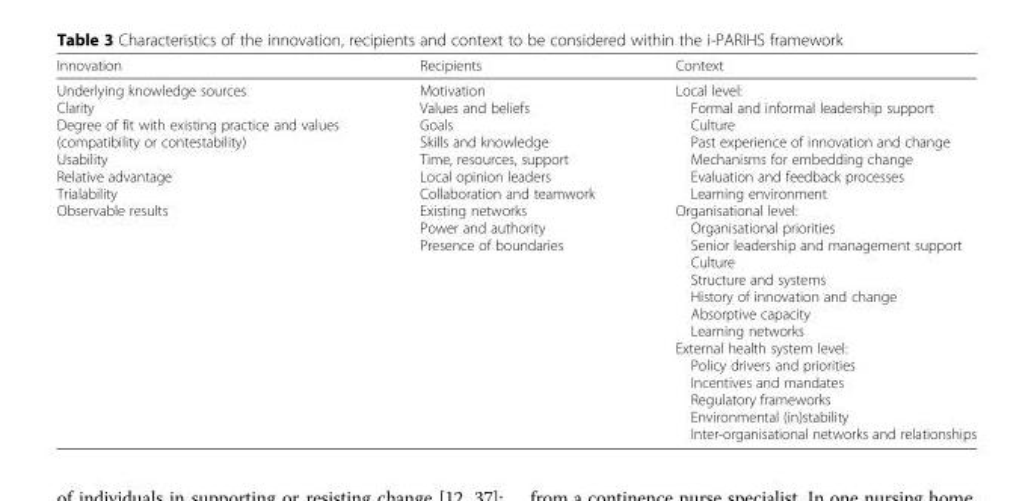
<table><thead><tr><td>Innovation</td><td>Recipients</td><td>Context</td></tr></thead><tbody><tr><td>Underlying knowledge sources Clarity Degree of fit with existing practice and values (compatibility or contestability) Usability Relative advantage Trialability Observable results</td><td>Motivation Values and beliefs Goals Skills and knowledge Time, resources, support Local opinion leaders Collaboration and teamwork Existing networks Power and authority Presence of boundaries</td><td>Local level: Formal and informal leadership support Culture Past experience of innovation and change Mechanisms for embedding change Evaluation and feedback processes Learning environment Organisational level: Organisational priorities Senior leadership and management support Culture Structure and systems History of innovation and change Absorptive capacity Learning networks External health system level: Policy drivers and priorities Incentives and mandates Regulatory frameworks Environmental (in)stability Inter-organisational networks and relationships</td></tr></tbody></table>